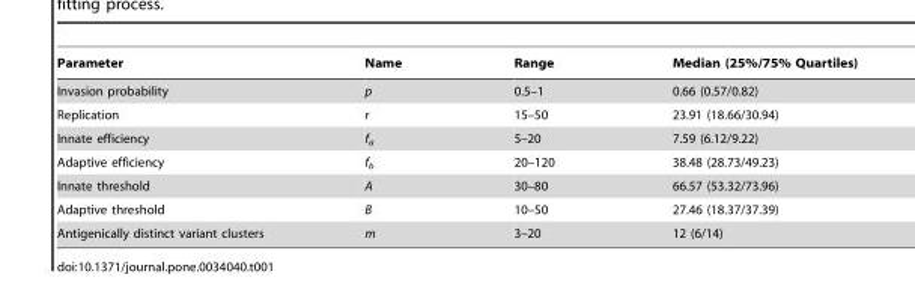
<table><thead><tr><td>Parameter</td><td>Name</td><td>Range</td><td>Median (25%/75% Quartiles)</td></tr></thead><tbody><tr><td>Invasion probability</td><td>p</td><td>0.5–1</td><td>0.66 (0.57/0.82)</td></tr><tr><td>Replication</td><td>r</td><td>15–50</td><td>23.91 (18.66/30.94)</td></tr><tr><td>Innate efficiency</td><td>f<sub>a</sub></td><td>5–20</td><td>7.59 (6.12/9.22)</td></tr><tr><td>Adaptive efficiency</td><td>f<sub>b</sub></td><td>20–120</td><td>38.48 (28.73/49.23)</td></tr><tr><td>Innate threshold</td><td>A</td><td>30–80</td><td>66.57 (53.32/73.96)</td></tr><tr><td>Adaptive threshold</td><td>B</td><td>10–50</td><td>27.46 (18.37/37.39)</td></tr><tr><td>Antigenically distinct variant clusters</td><td>m</td><td>3–20</td><td>12 (6/14)</td></tr></tbody></table>